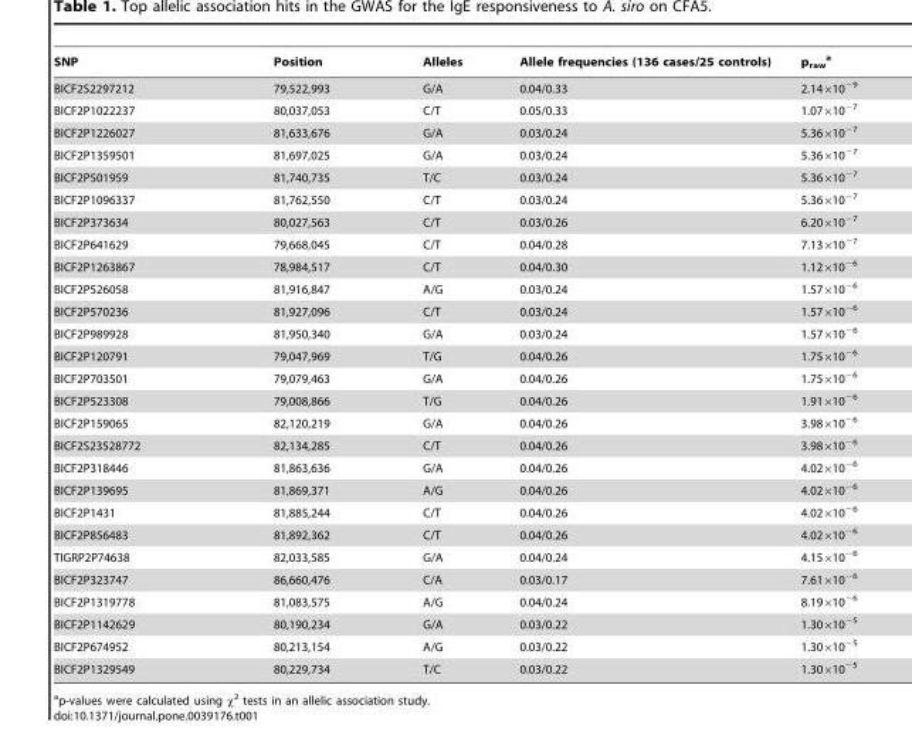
<table><thead><tr><td>SNP</td><td>Position</td><td>Alleles</td><td>Allele frequencies (136 cases/25 controls)</td><td>p<sub>raw</sub> a</td></tr></thead><tbody><tr><td>BICF2S2297212</td><td>79,522,993</td><td>G/A</td><td>0.04/0.33</td><td>2.14×10<sup>−9</sup></td></tr><tr><td>BICF2P1022237</td><td>80,037,053</td><td>C/T</td><td>0.05/0.33</td><td>1.07×10<sup>−7</sup></td></tr><tr><td>BICF2P1226027</td><td>81,633,676</td><td>G/A</td><td>0.03/0.24</td><td>5.36×10<sup>−7</sup></td></tr><tr><td>BICF2P1359501</td><td>81,697,025</td><td>G/A</td><td>0.03/0.24</td><td>5.36×10<sup>−7</sup></td></tr><tr><td>BICF2P501959</td><td>81,740,735</td><td>T/C</td><td>0.03/0.24</td><td>5.36×10<sup>−7</sup></td></tr><tr><td>BICF2P1096337</td><td>81,762,550</td><td>C/T</td><td>0.03/0.24</td><td>5.36×10<sup>−7</sup></td></tr><tr><td>BICF2P373634</td><td>80,027,563</td><td>C/T</td><td>0.03/0.26</td><td>6.20×10<sup>−7</sup></td></tr><tr><td>BICF2P641629</td><td>79,668,045</td><td>C/T</td><td>0.04/0.28</td><td>7.13×10<sup>−7</sup></td></tr><tr><td>BICF2P1263867</td><td>78,984,517</td><td>C/T</td><td>0.04/0.30</td><td>1.12×10<sup>−6</sup></td></tr><tr><td>BICF2P526058</td><td>81,916,847</td><td>A/G</td><td>0.03/0.24</td><td>1.57×10<sup>−6</sup></td></tr><tr><td>BICF2P570236</td><td>81,927,096</td><td>C/T</td><td>0.03/0.24</td><td>1.57×10<sup>−6</sup></td></tr><tr><td>BICF2P989928</td><td>81,950,340</td><td>G/A</td><td>0.03/0.24</td><td>1.57×10<sup>−6</sup></td></tr><tr><td>BICF2P120791</td><td>79,047,969</td><td>T/G</td><td>0.04/0.26</td><td>1.75×10<sup>−6</sup></td></tr><tr><td>BICF2P703501</td><td>79,079,463</td><td>G/A</td><td>0.04/0.26</td><td>1.75×10<sup>−6</sup></td></tr><tr><td>BICF2P523308</td><td>79,008,866</td><td>T/G</td><td>0.04/0.26</td><td>1.91×10<sup>−6</sup></td></tr><tr><td>BICF2P159065</td><td>82,120,219</td><td>G/A</td><td>0.04/0.26</td><td>3.98×10<sup>−6</sup></td></tr><tr><td>BICF2S23528772</td><td>82,134,285</td><td>C/T</td><td>0.04/0.26</td><td>3.98×10<sup>−6</sup></td></tr><tr><td>BICF2P318446</td><td>81,863,636</td><td>G/A</td><td>0.04/0.26</td><td>4.02×10<sup>−6</sup></td></tr><tr><td>BICF2P139695</td><td>81,869,371</td><td>A/G</td><td>0.04/0.26</td><td>4.02×10<sup>−6</sup></td></tr><tr><td>BICF2P1431</td><td>81,885,244</td><td>C/T</td><td>0.04/0.26</td><td>4.02×10<sup>−6</sup></td></tr><tr><td>BICF2P856483</td><td>81,892,362</td><td>C/T</td><td>0.04/0.26</td><td>4.02×10<sup>−6</sup></td></tr><tr><td>TIGRP2P74638</td><td>82,033,585</td><td>G/A</td><td>0.04/0.24</td><td>4.15×10<sup>−6</sup></td></tr><tr><td>BICF2P323747</td><td>86,660,476</td><td>C/A</td><td>0.03/0.17</td><td>7.61×10<sup>−6</sup></td></tr><tr><td>BICF2P1319778</td><td>81,083,575</td><td>A/G</td><td>0.04/0.24</td><td>8.19×10<sup>−6</sup></td></tr><tr><td>BICF2P1142629</td><td>80,190,234</td><td>G/A</td><td>0.03/0.22</td><td>1.30×10<sup>−5</sup></td></tr><tr><td>BICF2P674952</td><td>80,213,154</td><td>A/G</td><td>0.03/0.22</td><td>1.30×10<sup>−5</sup></td></tr><tr><td>BICF2P1329549</td><td>80,229,734</td><td>T/C</td><td>0.03/0.22</td><td>1.30×10<sup>−5</sup></td></tr></tbody></table>